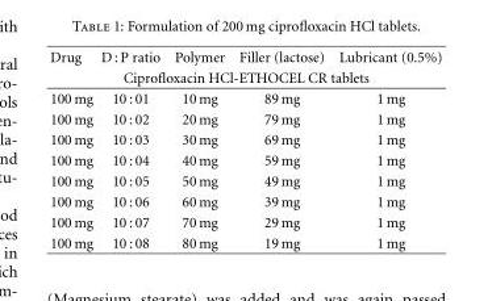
<table><thead><tr><td>Drug</td><td>D : P ratio</td><td>Polymer</td><td>Filler (lactose)</td><td>Lubricant (0.5%)</td></tr><tr><td colspan="5">Ciprofloxacin HCl-ETHOCEL CR tablets</td></tr></thead><tbody><tr><td>100 mg</td><td>10 : 01</td><td>10 mg</td><td>89 mg</td><td>1 mg</td></tr><tr><td>100 mg</td><td>10 : 02</td><td>20 mg</td><td>79 mg</td><td>1 mg</td></tr><tr><td>100 mg</td><td>10 : 03</td><td>30 mg</td><td>69 mg</td><td>1 mg</td></tr><tr><td>100 mg</td><td>10 : 04</td><td>40 mg</td><td>59 mg</td><td>1 mg</td></tr><tr><td>100 mg</td><td>10 : 05</td><td>50 mg</td><td>49 mg</td><td>1 mg</td></tr><tr><td>100 mg</td><td>10 : 06</td><td>60 mg</td><td>39 mg</td><td>1 mg</td></tr><tr><td>100 mg</td><td>10 : 07</td><td>70 mg</td><td>29 mg</td><td>1 mg</td></tr><tr><td>100 mg</td><td>10 : 08</td><td>80 mg</td><td>19 mg</td><td>1 mg</td></tr></tbody></table>